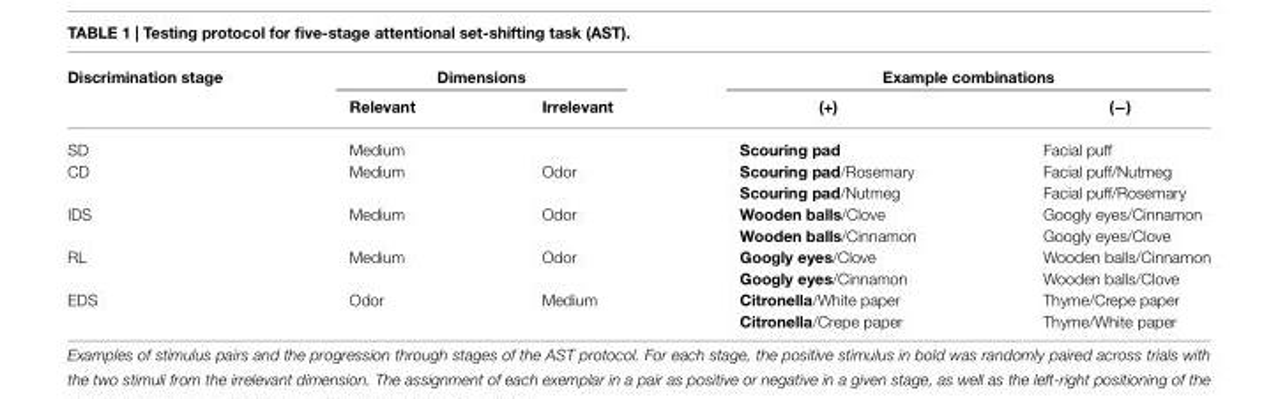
<table><thead><tr><td rowspan="2">Discrimination stage</td><td colspan="2">Dimensions</td><td colspan="2">Example combinations</td></tr><tr><td>Relevant</td><td>Irrelevant</td><td>(+)</td><td>(−)</td></tr></thead><tbody><tr><td>SD</td><td>Medium</td><td></td><td>Scouring pad</td><td>Facial puff</td></tr><tr><td rowspan="2">CD</td><td>Medium</td><td>Odor</td><td>Scouring pad/Rosemary</td><td>Facial puff/Nutmeg</td></tr><tr><td></td><td></td><td>Scouring pad/Nutmeg</td><td>Facial puff/Rosemary</td></tr><tr><td rowspan="2">IDS</td><td>Medium</td><td>Odor</td><td>Wooden balls/Clove</td><td>Googly eyes/Cinnamon</td></tr><tr><td></td><td></td><td>Wooden balls/Cinnamon</td><td>Googly eyes/Clove</td></tr><tr><td rowspan="2">RL</td><td>Medium</td><td>Odor</td><td>Googly eyes/Clove</td><td>Wooden balls/Cinnamon</td></tr><tr><td></td><td></td><td>Googly eyes/Cinnamon</td><td>Wooden balls/Clove</td></tr><tr><td rowspan="2">EDS</td><td>Odor</td><td>Medium</td><td>Citronella/White paper</td><td>Thyme/Crepe paper</td></tr><tr><td></td><td></td><td>Citronella/Crepe paper</td><td>Thyme/White paper</td></tr></tbody></table>